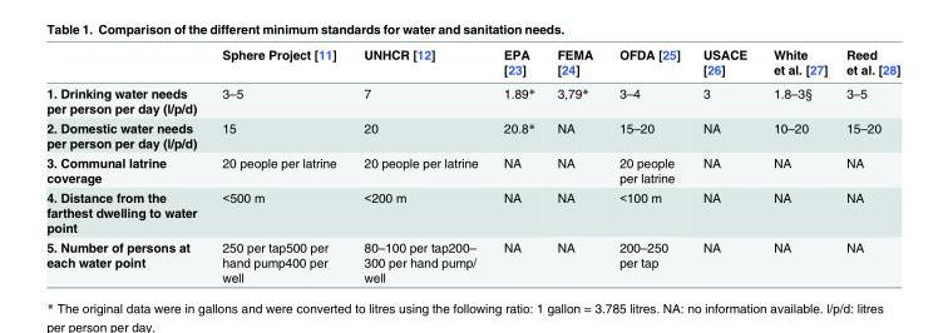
<table><thead><tr><td></td><td>Sphere Project [11]</td><td>UNHCR [12]</td><td>EPA [23]</td><td>FEMA [24]</td><td>OFDA [25]</td><td>USACE [26]</td><td>White et al. [27]</td><td>Reed et al. [28]</td></tr></thead><tbody><tr><td>1. Drinking water needs per person per day (l/p/d)</td><td>3–5</td><td>7</td><td>1.89*</td><td>3,79*</td><td>3–4</td><td>3</td><td>1.8–3§</td><td>3–5</td></tr><tr><td>2. Domestic water needs per person per day (l/p/d)</td><td>15</td><td>20</td><td>20.8*</td><td>NA</td><td>15–20</td><td>NA</td><td>10–20</td><td>15–20</td></tr><tr><td>3. Communal latrine coverage</td><td>20 people per latrine</td><td>20 people per latrine</td><td>NA</td><td>NA</td><td>20 people per latrine</td><td>NA</td><td>NA</td><td>NA</td></tr><tr><td>4. Distance from the farthest dwelling to water point</td><td>&lt;500 m</td><td>&lt;200 m</td><td>NA</td><td>NA</td><td>&lt;100 m</td><td>NA</td><td>NA</td><td>NA</td></tr><tr><td>5. Number of persons at each water point</td><td>250 per tap500 per hand pump400 per well</td><td>80–100 per tap200– 300 per hand pump/ well</td><td>NA</td><td>NA</td><td>200–250 per tap</td><td>NA</td><td>NA</td><td>NA</td></tr></tbody></table>